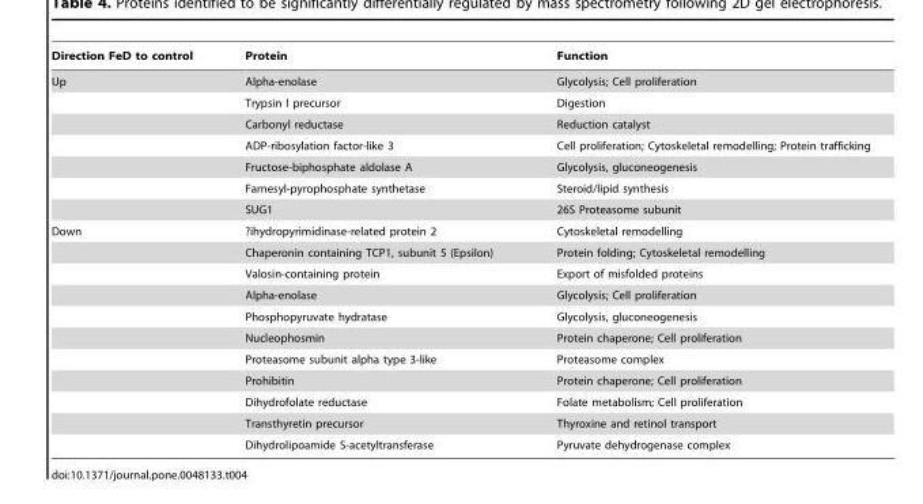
<table><thead><tr><td>Direction FeD to control</td><td>Protein</td><td>Function</td></tr></thead><tbody><tr><td rowspan="7">Up</td><td>Alpha-enolase</td><td>Glycolysis; Cell proliferation</td></tr><tr><td>Trypsin I precursor</td><td>Digestion</td></tr><tr><td>Carbonyl reductase</td><td>Reduction catalyst</td></tr><tr><td>ADP-ribosylation factor-like 3</td><td>Cell proliferation; Cytoskeletal remodelling; Protein trafficking</td></tr><tr><td>Fructose-biphosphate aldolase A</td><td>Glycolysis, gluconeogenesis</td></tr><tr><td>Farnesyl-pyrophosphate synthetase</td><td>Steroid/lipid synthesis</td></tr><tr><td>SUG1</td><td>26S Proteasome subunit</td></tr><tr><td rowspan="11">Down</td><td>?ihydropyrimidinase-related protein 2</td><td>Cytoskeletal remodelling</td></tr><tr><td>Chaperonin containing TCP1, subunit 5 (Epsilon)</td><td>Protein folding; Cytoskeletal remodelling</td></tr><tr><td>Valosin-containing protein</td><td>Export of misfolded proteins</td></tr><tr><td>Alpha-enolase</td><td>Glycolysis; Cell proliferation</td></tr><tr><td>Phosphopyruvate hydratase</td><td>Glycolysis, gluconeogenesis</td></tr><tr><td>Nucleophosmin</td><td>Protein chaperone; Cell proliferation</td></tr><tr><td>Proteasome subunit alpha type 3-like</td><td>Proteasome complex</td></tr><tr><td>Prohibitin</td><td>Protein chaperone; Cell proliferation</td></tr><tr><td>Dihydrofolate reductase</td><td>Folate metabolism; Cell proliferation</td></tr><tr><td>Transthyretin precursor</td><td>Thyroxine and retinol transport</td></tr><tr><td>Dihydrolipoamide S-acetyltransferase</td><td>Pyruvate dehydrogenase complex</td></tr></tbody></table>